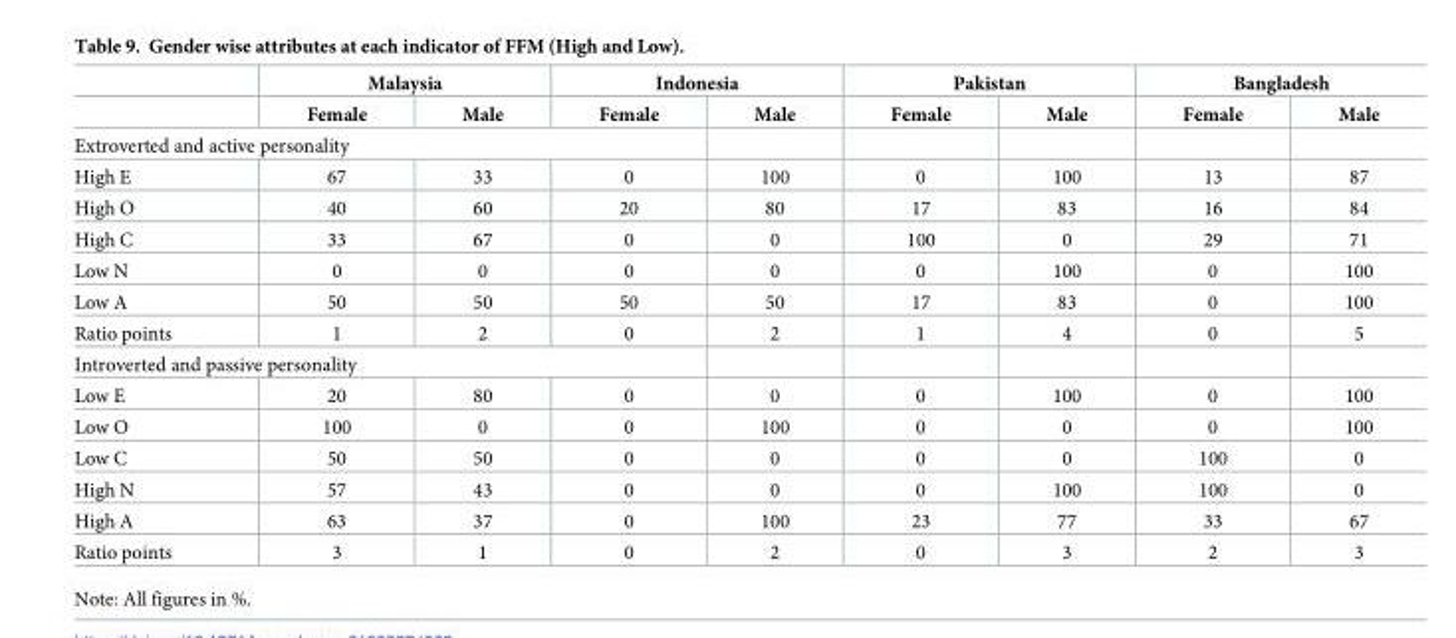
<table><thead><tr><td rowspan="2"></td><td colspan="2">Malaysia</td><td colspan="2">Indonesia</td><td colspan="2">Pakistan</td><td colspan="2">Bangladesh</td></tr><tr><td>Female</td><td>Male</td><td>Female</td><td>Male</td><td>Female</td><td>Male</td><td>Female</td><td>Male</td></tr></thead><tbody><tr><td colspan="9">Extroverted and active personality</td></tr><tr><td>High E</td><td>67</td><td>33</td><td>0</td><td>100</td><td>0</td><td>100</td><td>13</td><td>87</td></tr><tr><td>High O</td><td>40</td><td>60</td><td>20</td><td>80</td><td>17</td><td>83</td><td>16</td><td>84</td></tr><tr><td>High C</td><td>33</td><td>67</td><td>0</td><td>0</td><td>100</td><td>0</td><td>29</td><td>71</td></tr><tr><td>Low N</td><td>0</td><td>0</td><td>0</td><td>0</td><td>0</td><td>100</td><td>0</td><td>100</td></tr><tr><td>Low A</td><td>50</td><td>50</td><td>50</td><td>50</td><td>17</td><td>83</td><td>0</td><td>100</td></tr><tr><td>Ratio points</td><td>1</td><td>2</td><td>0</td><td>2</td><td>1</td><td>4</td><td>0</td><td>5</td></tr><tr><td colspan="9">Introverted and passive personality</td></tr><tr><td>Low E</td><td>20</td><td>80</td><td>0</td><td>0</td><td>0</td><td>100</td><td>0</td><td>100</td></tr><tr><td>Low O</td><td>100</td><td>0</td><td>0</td><td>100</td><td>0</td><td>0</td><td>0</td><td>100</td></tr><tr><td>Low C</td><td>50</td><td>50</td><td>0</td><td>0</td><td>0</td><td>0</td><td>100</td><td>0</td></tr><tr><td>High N</td><td>57</td><td>43</td><td>0</td><td>0</td><td>0</td><td>100</td><td>100</td><td>0</td></tr><tr><td>High A</td><td>63</td><td>37</td><td>0</td><td>100</td><td>23</td><td>77</td><td>33</td><td>67</td></tr><tr><td>Ratio points</td><td>3</td><td>1</td><td>0</td><td>2</td><td>0</td><td>3</td><td>2</td><td>3</td></tr></tbody></table>